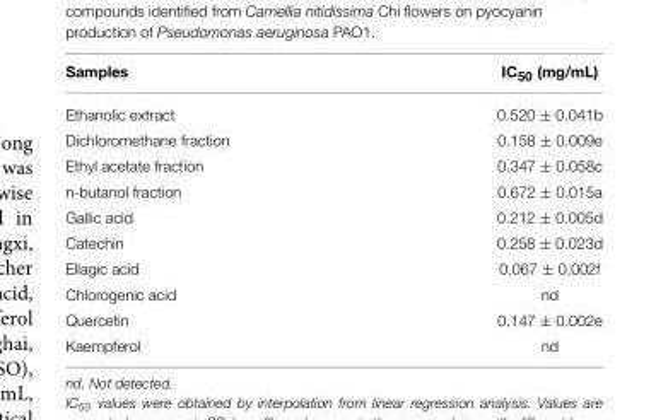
<table><thead><tr><td>Samples</td><td>IC<sub>50</sub> (mg/mL)</td></tr></thead><tbody><tr><td>Ethanolic extract</td><td>0.520 ± 0.041b</td></tr><tr><td>Dichloromethane fraction</td><td>0.158 ± 0.009e</td></tr><tr><td>Ethyl acetate fraction</td><td>0.347 ± 0.058c</td></tr><tr><td>n-butanol fraction</td><td>0.672 ± 0.015a</td></tr><tr><td>Gallic acid</td><td>0.212 ± 0.005d</td></tr><tr><td>Catechin</td><td>0.258 ± 0.023d</td></tr><tr><td>Ellagic acid</td><td>0.067 ± 0.002f</td></tr><tr><td>Chlorogenic acid</td><td>nd</td></tr><tr><td>Quercetin</td><td>0.147 ± 0.002e</td></tr><tr><td>Kaempferol</td><td>nd</td></tr></tbody></table>